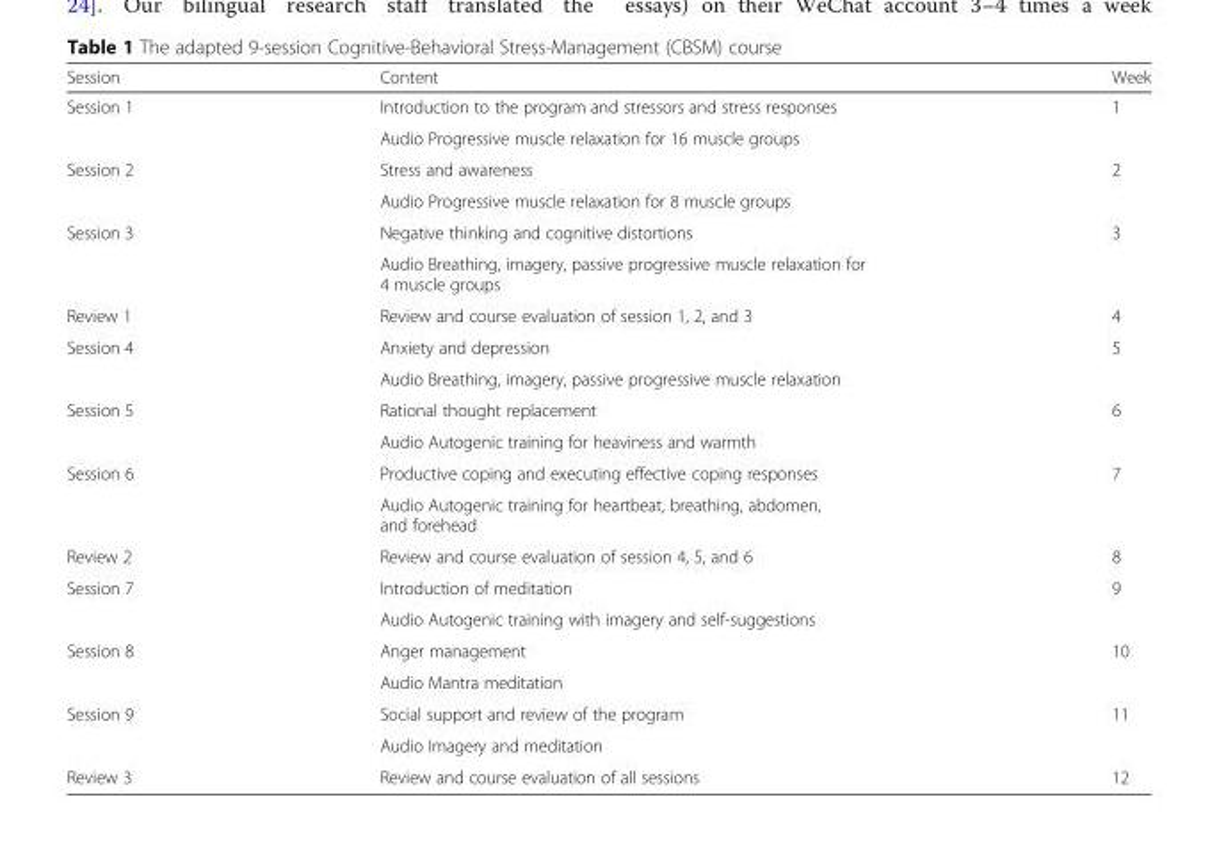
<table><thead><tr><td>Session</td><td>Content</td><td>Week</td></tr></thead><tbody><tr><td rowspan="2">Session 1</td><td>Introduction to the program and stressors and stress responses</td><td>1</td></tr><tr><td>Audio Progressive muscle relaxation for 16 muscle groups</td><td></td></tr><tr><td rowspan="2">Session 2</td><td>Stress and awareness</td><td>2</td></tr><tr><td>Audio Progressive muscle relaxation for 8 muscle groups</td><td></td></tr><tr><td rowspan="2">Session 3</td><td>Negative thinking and cognitive distortions</td><td>3</td></tr><tr><td>Audio Breathing, imagery, passive progressive muscle relaxation for 4 muscle groups</td><td></td></tr><tr><td>Review 1</td><td>Review and course evaluation of session 1, 2, and 3</td><td>4</td></tr><tr><td rowspan="2">Session 4</td><td>Anxiety and depression</td><td>5</td></tr><tr><td>Audio Breathing, imagery, passive progressive muscle relaxation</td><td></td></tr><tr><td rowspan="2">Session 5</td><td>Rational thought replacement</td><td>6</td></tr><tr><td>Audio Autogenic training for heaviness and warmth</td><td></td></tr><tr><td rowspan="2">Session 6</td><td>Productive coping and executing effective coping responses</td><td>7</td></tr><tr><td>Audio Autogenic training for heartbeat, breathing, abdomen, and forehead</td><td></td></tr><tr><td>Review 2</td><td>Review and course evaluation of session 4, 5, and 6</td><td>8</td></tr><tr><td rowspan="2">Session 7</td><td>Introduction of meditation</td><td>9</td></tr><tr><td>Audio Autogenic training with imagery and self-suggestions</td><td></td></tr><tr><td rowspan="2">Session 8</td><td>Anger management</td><td>10</td></tr><tr><td>Audio Mantra meditation</td><td></td></tr><tr><td rowspan="2">Session 9</td><td>Social support and review of the program</td><td>11</td></tr><tr><td>Audio Imagery and meditation</td><td></td></tr><tr><td>Review 3</td><td>Review and course evaluation of all sessions</td><td>12</td></tr></tbody></table>